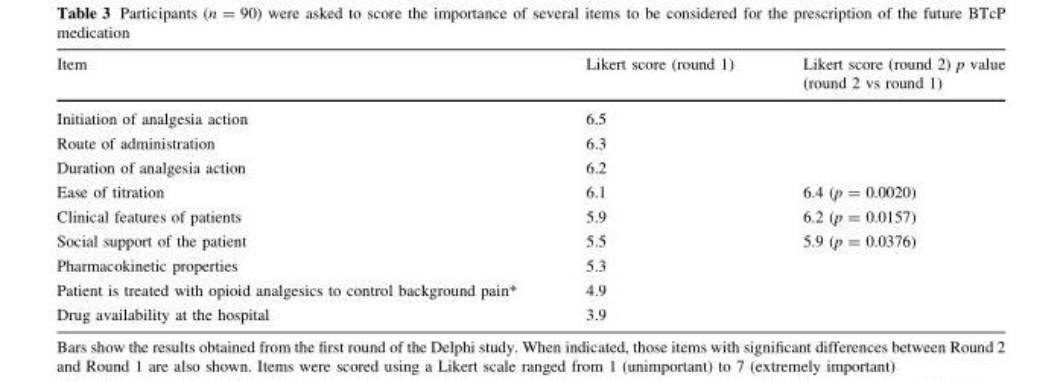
<table><thead><tr><td>Item</td><td>Likert score (round 1)</td><td>Likert score (round 2) p value (round 2 vs round 1)</td></tr></thead><tbody><tr><td>Initiation of analgesia action</td><td>6.5</td><td></td></tr><tr><td>Route of administration</td><td>6.3</td><td></td></tr><tr><td>Duration of analgesia action</td><td>6.2</td><td></td></tr><tr><td>Ease of titration</td><td>6.1</td><td>6.4 (p = 0.0020)</td></tr><tr><td>Clinical features of patients</td><td>5.9</td><td>6.2 (p = 0.0157)</td></tr><tr><td>Social support of the patient</td><td>5.5</td><td>5.9 (p = 0.0376)</td></tr><tr><td>Pharmacokinetic properties</td><td>5.3</td><td></td></tr><tr><td>Patient is treated with opioid analgesics to control background pain*</td><td>4.9</td><td></td></tr><tr><td>Drug availability at the hospital</td><td>3.9</td><td></td></tr></tbody></table>